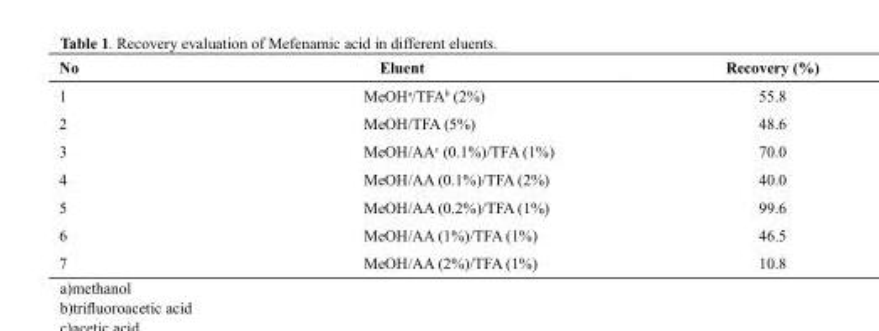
<table><thead><tr><td>No</td><td>Eluent</td><td>Recovery (%)</td></tr></thead><tbody><tr><td>1</td><td>MeOH<sup>a</sup>/TFA<sup>b</sup> (2%)</td><td>55.8</td></tr><tr><td>2</td><td>MeOH/TFA (5%)</td><td>48.6</td></tr><tr><td>3</td><td>MeOH/AA<sup>c</sup> (0.1%)/TFA (1%)</td><td>70.0</td></tr><tr><td>4</td><td>MeOH/AA (0.1%)/TFA (2%)</td><td>40.0</td></tr><tr><td>5</td><td>MeOH/AA (0.2%)/TFA (1%)</td><td>99.6</td></tr><tr><td>6</td><td>MeOH/AA (1%)/TFA (1%)</td><td>46.5</td></tr><tr><td>7</td><td>MeOH/AA (2%)/TFA (1%)</td><td>10.8</td></tr></tbody></table>